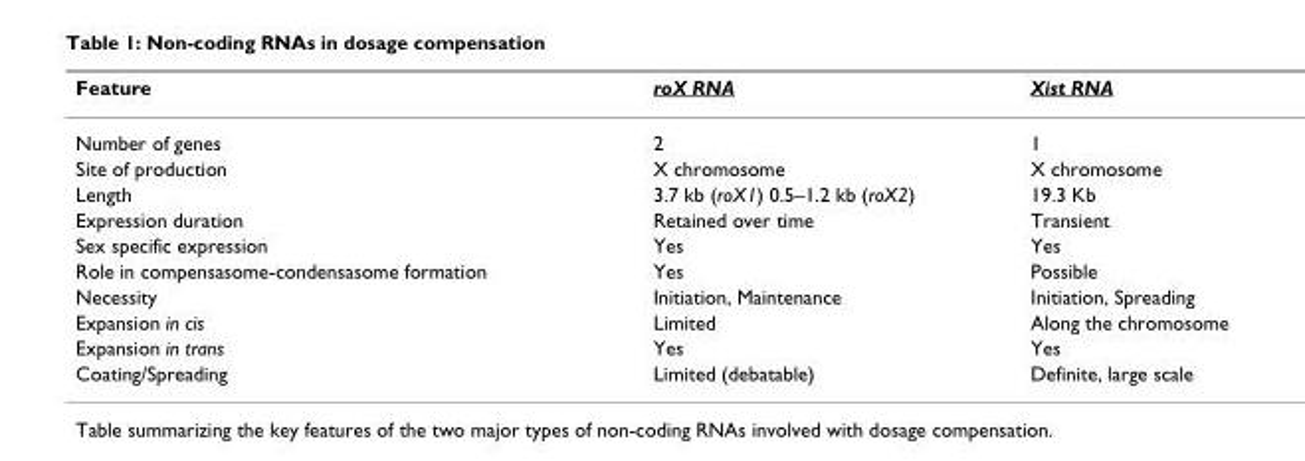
<table><thead><tr><td>Feature</td><td>roX RNA</td><td>Xist RNA</td></tr></thead><tbody><tr><td>Number of genes</td><td>2</td><td>1</td></tr><tr><td>Site of production</td><td>X chromosome</td><td>X chromosome</td></tr><tr><td>Length</td><td>3.7 kb (roX1) 0.5–1.2 kb (roX2)</td><td>19.3 Kb</td></tr><tr><td>Expression duration</td><td>Retained over time</td><td>Transient</td></tr><tr><td>Sex specific expression</td><td>Yes</td><td>Yes</td></tr><tr><td>Role in compensasome-condensasome formation</td><td>Yes</td><td>Possible</td></tr><tr><td>Necessity</td><td>Initiation, Maintenance</td><td>Initiation, Spreading</td></tr><tr><td>Expansion in cis</td><td>Limited</td><td>Along the chromosome</td></tr><tr><td>Expansion in trans</td><td>Yes</td><td>Yes</td></tr><tr><td>Coating/Spreading</td><td>Limited (debatable)</td><td>Definite, large scale</td></tr></tbody></table>